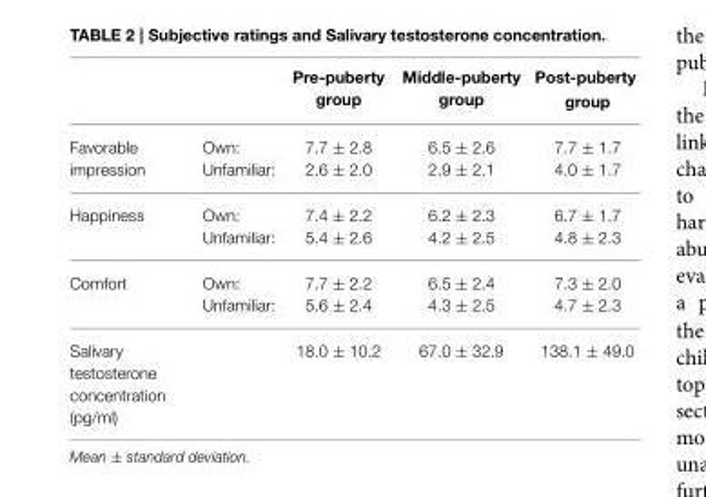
<table><thead><tr><td></td><td></td><td>Pre-puberty group</td><td>Middle-puberty group</td><td>Post-puberty group</td></tr></thead><tbody><tr><td>Favorable impression</td><td>Own: Unfamiliar:</td><td>7.7 ± 2.8 2.6 ± 2.0</td><td>6.5 ± 2.6 2.9 ± 2.1</td><td>7.7 ± 1.7 4.0 ± 1.7</td></tr><tr><td>Happiness</td><td>Own: Unfamiliar:</td><td>7.4 ± 2.2 5.4 ± 2.6</td><td>6.2 ± 2.3 4.2 ± 2.5</td><td>6.7 ± 1.7 4.8 ± 2.3</td></tr><tr><td>Comfort</td><td>Own: Unfamiliar:</td><td>7.7 ± 2.2 5.6 ± 2.4</td><td>6.5 ± 2.4 4.3 ± 2.5</td><td>7.3 ± 2.0 4.7 ± 2.3</td></tr><tr><td>Salivary testosterone concentration (pg/ml)</td><td></td><td>18.0 ± 10.2</td><td>67.0 ± 32.9</td><td>138.1 ± 49.0</td></tr></tbody></table>